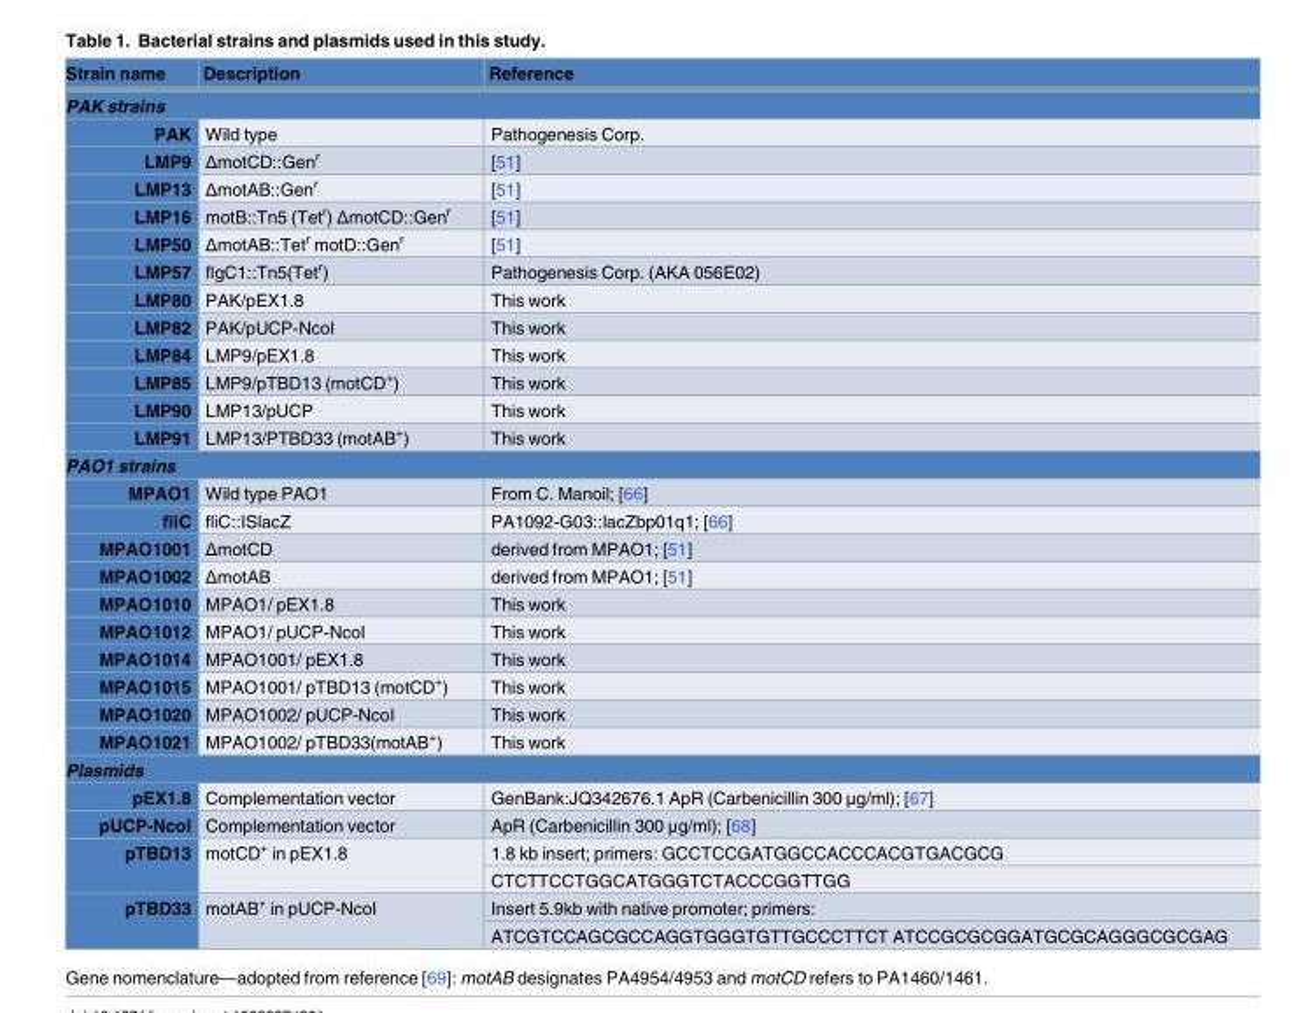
<table><thead><tr><td>Strain name</td><td>Description</td><td>Reference</td></tr></thead><tbody><tr><td colspan="3">PAK strains</td></tr><tr><td>PAK</td><td>Wild type</td><td>Pathogenesis Corp.</td></tr><tr><td>LMP9</td><td>ΔmotCD::Gen<sup>r</sup></td><td>[51]</td></tr><tr><td>LMP13</td><td>ΔmotAB::Gen<sup>r</sup></td><td>[51]</td></tr><tr><td>LMP16</td><td>motB::Tn5 (Tet<sup>r</sup>) ΔmotCD::Gen<sup>r</sup></td><td>[51]</td></tr><tr><td>LMP50</td><td>ΔmotAB::Tet<sup>r</sup> motD::Gen<sup>r</sup></td><td>[51]</td></tr><tr><td>LMP57</td><td>flgC1::Tn5(Tet<sup>r</sup>)</td><td>Pathogenesis Corp. (AKA 056E02)</td></tr><tr><td>LMP80</td><td>PAK/pEX1.8</td><td>This work</td></tr><tr><td>LMP82</td><td>PAK/pUCP-NcoI</td><td>This work</td></tr><tr><td>LMP84</td><td>LMP9/pEX1.8</td><td>This work</td></tr><tr><td>LMP85</td><td>LMP9/pTBD13 (motCD<sup>+</sup>)</td><td>This work</td></tr><tr><td>LMP90</td><td>LMP13/pUCP</td><td>This work</td></tr><tr><td>LMP91</td><td>LMP13/PTBD33 (motAB<sup>+</sup>)</td><td>This work</td></tr><tr><td colspan="3">PAO1 strains</td></tr><tr><td>MPAO1</td><td>Wild type PAO1</td><td>From C. Manoil; [66]</td></tr><tr><td>fliC</td><td>fliC::ISlacZ</td><td>PA1092-G03::lacZbp01q1; [66]</td></tr><tr><td>MPAO1001</td><td>ΔmotCD</td><td>derived from MPAO1; [51]</td></tr><tr><td>MPAO1002</td><td>ΔmotAB</td><td>derived from MPAO1; [51]</td></tr><tr><td>MPAO1010</td><td>MPAO1/ pEX1.8</td><td>This work</td></tr><tr><td>MPAO1012</td><td>MPAO1/ pUCP-NcoI</td><td>This work</td></tr><tr><td>MPAO1014</td><td>MPAO1001/ pEX1.8</td><td>This work</td></tr><tr><td>MPAO1015</td><td>MPAO1001/ pTBD13 (motCD<sup>+</sup>)</td><td>This work</td></tr><tr><td>MPAO1020</td><td>MPAO1002/ pUCP-NcoI</td><td>This work</td></tr><tr><td>MPAO1021</td><td>MPAO1002/ pTBD33(motAB<sup>+</sup>)</td><td>This work</td></tr><tr><td colspan="3">Plasmids</td></tr><tr><td>pEX1.8</td><td>Complementation vector</td><td>GenBank:JQ342676.1 ApR (Carbenicillin 300 μg/ml); [67]</td></tr><tr><td>pUCP-NcoI</td><td>Complementation vector</td><td>ApR (Carbenicillin 300 μg/ml); [68]</td></tr><tr><td rowspan="2">pTBD13</td><td rowspan="2">motCD<sup>+</sup> in pEX1.8</td><td>1.8 kb insert; primers: GCCTCCGATGGCCACCCACGTGACGCG</td></tr><tr><td>CTCTTCCTGGCATGGGTCTACCCGGTTGG</td></tr><tr><td rowspan="2">pTBD33</td><td rowspan="2">motAB<sup>+</sup> in pUCP-NcoI</td><td>Insert 5.9kb with native promoter; primers:</td></tr><tr><td>ATCGTCCAGCGCCAGGTGGGTGTTGCCCTTCT ATCCGCGCGGATGCGCAGGGCGCGAG</td></tr></tbody></table>